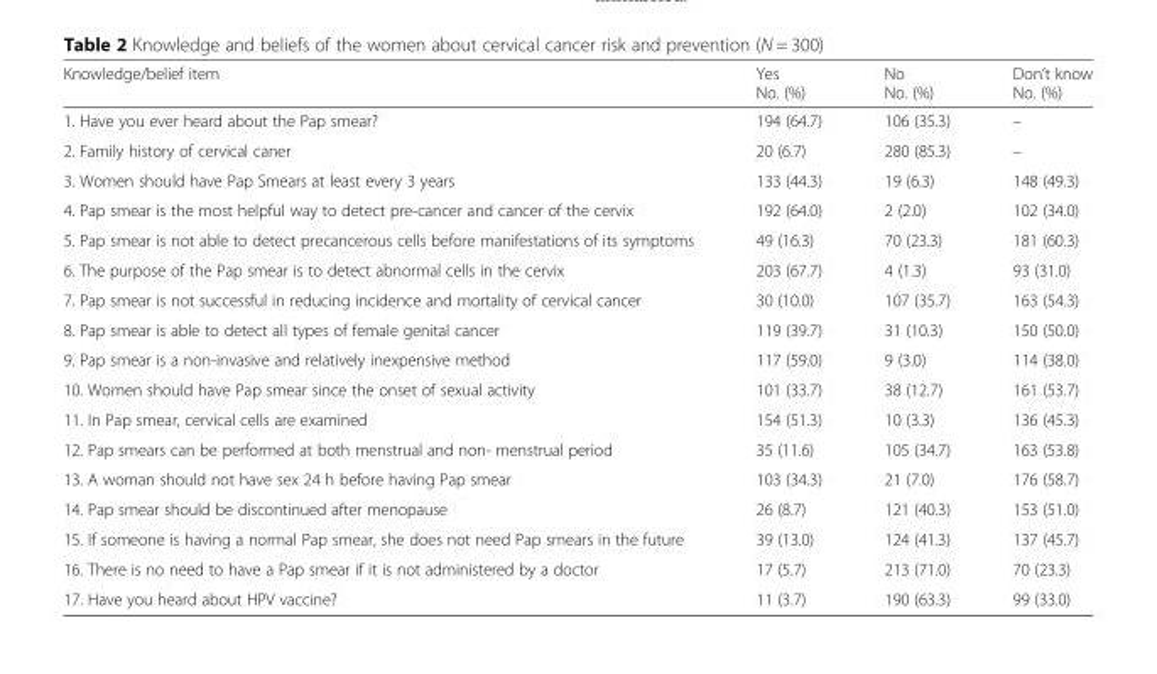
<table><thead><tr><td>Knowledge/belief item</td><td>Yes No. (%)</td><td>No No. (%)</td><td>Don’t know No. (%)</td></tr></thead><tbody><tr><td>1. Have you ever heard about the Pap smear?</td><td>194 (64.7)</td><td>106 (35.3)</td><td>–</td></tr><tr><td>2. Family history of cervical caner</td><td>20 (6.7)</td><td>280 (85.3)</td><td>–</td></tr><tr><td>3. Women should have Pap Smears at least every 3 years</td><td>133 (44.3)</td><td>19 (6.3)</td><td>148 (49.3)</td></tr><tr><td>4. Pap smear is the most helpful way to detect pre-cancer and cancer of the cervix</td><td>192 (64.0)</td><td>2 (2.0)</td><td>102 (34.0)</td></tr><tr><td>5. Pap smear is not able to detect precancerous cells before manifestations of its symptoms</td><td>49 (16.3)</td><td>70 (23.3)</td><td>181 (60.3)</td></tr><tr><td>6. The purpose of the Pap smear is to detect abnormal cells in the cervix</td><td>203 (67.7)</td><td>4 (1.3)</td><td>93 (31.0)</td></tr><tr><td>7. Pap smear is not successful in reducing incidence and mortality of cervical cancer</td><td>30 (10.0)</td><td>107 (35.7)</td><td>163 (54.3)</td></tr><tr><td>8. Pap smear is able to detect all types of female genital cancer</td><td>119 (39.7)</td><td>31 (10.3)</td><td>150 (50.0)</td></tr><tr><td>9. Pap smear is a non-invasive and relatively inexpensive method</td><td>117 (59.0)</td><td>9 (3.0)</td><td>114 (38.0)</td></tr><tr><td>10. Women should have Pap smear since the onset of sexual activity</td><td>101 (33.7)</td><td>38 (12.7)</td><td>161 (53.7)</td></tr><tr><td>11. In Pap smear, cervical cells are examined</td><td>154 (51.3)</td><td>10 (3.3)</td><td>136 (45.3)</td></tr><tr><td>12. Pap smears can be performed at both menstrual and non- menstrual period</td><td>35 (11.6)</td><td>105 (34.7)</td><td>163 (53.8)</td></tr><tr><td>13. A woman should not have sex 24 h before having Pap smear</td><td>103 (34.3)</td><td>21 (7.0)</td><td>176 (58.7)</td></tr><tr><td>14. Pap smear should be discontinued after menopause</td><td>26 (8.7)</td><td>121 (40.3)</td><td>153 (51.0)</td></tr><tr><td>15. If someone is having a normal Pap smear, she does not need Pap smears in the future</td><td>39 (13.0)</td><td>124 (41.3)</td><td>137 (45.7)</td></tr><tr><td>16. There is no need to have a Pap smear if it is not administered by a doctor</td><td>17 (5.7)</td><td>213 (71.0)</td><td>70 (23.3)</td></tr><tr><td>17. Have you heard about HPV vaccine?</td><td>11 (3.7)</td><td>190 (63.3)</td><td>99 (33.0)</td></tr></tbody></table>